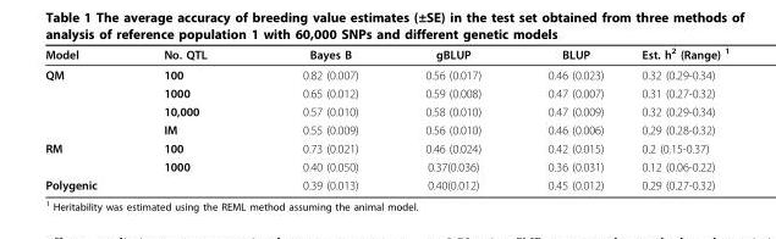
<table><thead><tr><td>Model</td><td>No. QTL</td><td>Bayes B</td><td>gBLUP</td><td>BLUP</td><td>Est. h<sup>2</sup> (Range) <sup>1</sup></td></tr></thead><tbody><tr><td rowspan="4">QM</td><td>100</td><td>0.82 (0.007)</td><td>0.56 (0.017)</td><td>0.46 (0.023)</td><td>0.32 (0.29-0.34)</td></tr><tr><td>1000</td><td>0.65 (0.012)</td><td>0.59 (0.008)</td><td>0.47 (0.007)</td><td>0.31 (0.27-0.32)</td></tr><tr><td>10,000</td><td>0.57 (0.010)</td><td>0.58 (0.010)</td><td>0.47 (0.009)</td><td>0.32 (0.29-0.34)</td></tr><tr><td>IM</td><td>0.55 (0.009)</td><td>0.56 (0.010)</td><td>0.46 (0.006)</td><td>0.29 (0.28-0.32)</td></tr><tr><td rowspan="2">RM</td><td>100</td><td>0.73 (0.021)</td><td>0.46 (0.024)</td><td>0.42 (0.015)</td><td>0.2 (0.15-0.37)</td></tr><tr><td>1000</td><td>0.40 (0.050)</td><td>0.37(0.036)</td><td>0.36 (0.031)</td><td>0.12 (0.06-0.22)</td></tr><tr><td>Polygenic</td><td></td><td>0.39 (0.013)</td><td>0.40(0.012)</td><td>0.45 (0.012)</td><td>0.29 (0.27-0.32)</td></tr></tbody></table>